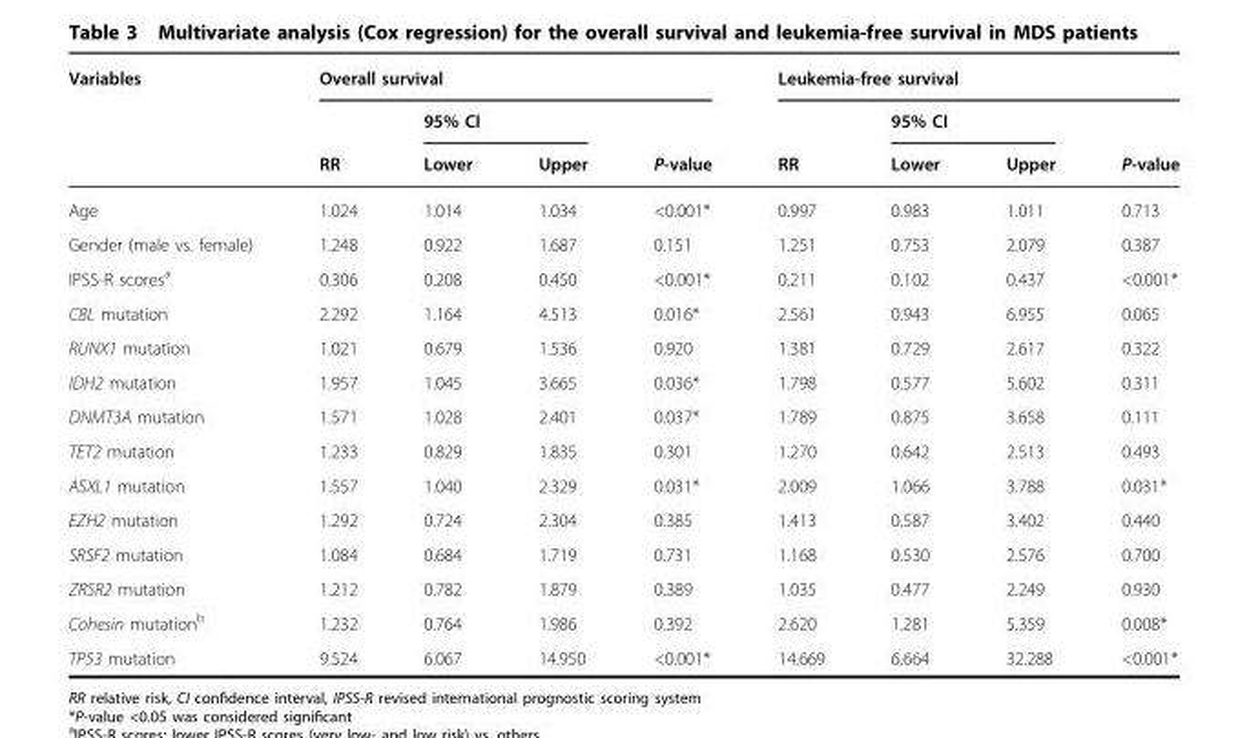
<table><thead><tr><td rowspan="3">Variables</td><td colspan="4">Overall survival</td><td colspan="4">Leukemia-free survival</td></tr><tr><td rowspan="2">RR</td><td colspan="2">95% CI</td><td rowspan="2">P-value</td><td rowspan="2">RR</td><td colspan="2">95% CI</td><td rowspan="2">P-value</td></tr><tr><td>Lower</td><td>Upper</td><td>Lower</td><td>Upper</td></tr></thead><tbody><tr><td>Age</td><td>1.024</td><td>1.014</td><td>1.034</td><td>&lt;0.001*</td><td>0.997</td><td>0.983</td><td>1.011</td><td>0.713</td></tr><tr><td>Gender (male vs. female)</td><td>1.248</td><td>0.922</td><td>1.687</td><td>0.151</td><td>1.251</td><td>0.753</td><td>2.079</td><td>0.387</td></tr><tr><td>IPSS-R scores<sup>a</sup></td><td>0.306</td><td>0.208</td><td>0.450</td><td>&lt;0.001*</td><td>0.211</td><td>0.102</td><td>0.437</td><td>&lt;0.001*</td></tr><tr><td>CBL mutation</td><td>2.292</td><td>1.164</td><td>4.513</td><td>0.016*</td><td>2.561</td><td>0.943</td><td>6.955</td><td>0.065</td></tr><tr><td>RUNX1 mutation</td><td>1.021</td><td>0.679</td><td>1.536</td><td>0.920</td><td>1.381</td><td>0.729</td><td>2.617</td><td>0.322</td></tr><tr><td>IDH2 mutation</td><td>1.957</td><td>1.045</td><td>3.665</td><td>0.036*</td><td>1.798</td><td>0.577</td><td>5.602</td><td>0.311</td></tr><tr><td>DNMT3A mutation</td><td>1.571</td><td>1.028</td><td>2.401</td><td>0.037*</td><td>1.789</td><td>0.875</td><td>3.658</td><td>0.111</td></tr><tr><td>TET2 mutation</td><td>1.233</td><td>0.829</td><td>1.835</td><td>0.301</td><td>1.270</td><td>0.642</td><td>2.513</td><td>0.493</td></tr><tr><td>ASXL1 mutation</td><td>1.557</td><td>1.040</td><td>2.329</td><td>0.031*</td><td>2.009</td><td>1.066</td><td>3.788</td><td>0.031*</td></tr><tr><td>EZH2 mutation</td><td>1.292</td><td>0.724</td><td>2.304</td><td>0.385</td><td>1.413</td><td>0.587</td><td>3.402</td><td>0.440</td></tr><tr><td>SRSF2 mutation</td><td>1.084</td><td>0.684</td><td>1.719</td><td>0.731</td><td>1.168</td><td>0.530</td><td>2.576</td><td>0.700</td></tr><tr><td>ZRSR2 mutation</td><td>1.212</td><td>0.782</td><td>1.879</td><td>0.389</td><td>1.035</td><td>0.477</td><td>2.249</td><td>0.930</td></tr><tr><td>Cohesin mutation<sup>b</sup></td><td>1.232</td><td>0.764</td><td>1.986</td><td>0.392</td><td>2.620</td><td>1.281</td><td>5.359</td><td>0.008*</td></tr><tr><td>TP53 mutation</td><td>9.524</td><td>6.067</td><td>14.950</td><td>&lt;0.001*</td><td>14.669</td><td>6.664</td><td>32.288</td><td>&lt;0.001*</td></tr></tbody></table>